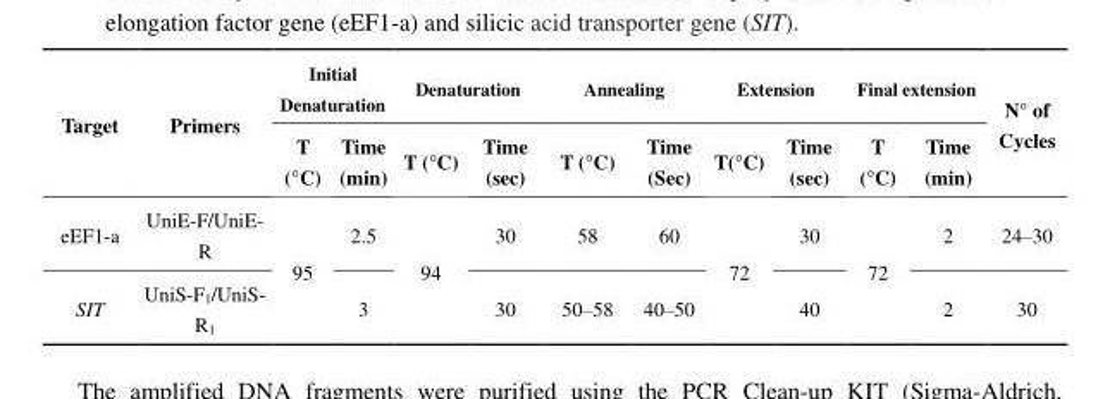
<table><thead><tr><td rowspan="2">Target</td><td rowspan="2">Primers</td><td colspan="2">Initial Denaturation</td><td colspan="2">Denaturation</td><td colspan="2">Annealing</td><td colspan="2">Extension</td><td colspan="2">Final extension</td><td rowspan="2">N° of Cycles</td></tr><tr><td>T (°C)</td><td>Time (min)</td><td>T (°C)</td><td>Time (sec)</td><td>T (°C)</td><td>Time (Sec)</td><td>T(°C)</td><td>Time (sec)</td><td>T (°C)</td><td>Time (min)</td></tr></thead><tbody><tr><td>eEF1-a</td><td>UniE-F/UniE- R</td><td rowspan="2">95</td><td>2.5</td><td rowspan="2">94</td><td>30</td><td>58</td><td>60</td><td rowspan="2">72</td><td>30</td><td rowspan="2">72</td><td>2</td><td>24–30</td></tr><tr><td>SIT</td><td>UniS-F<sub>1</sub>/UniS- R<sub>1</sub></td><td>3</td><td>30</td><td>50–58</td><td>40–50</td><td>40</td><td>2</td><td>30</td></tr></tbody></table>